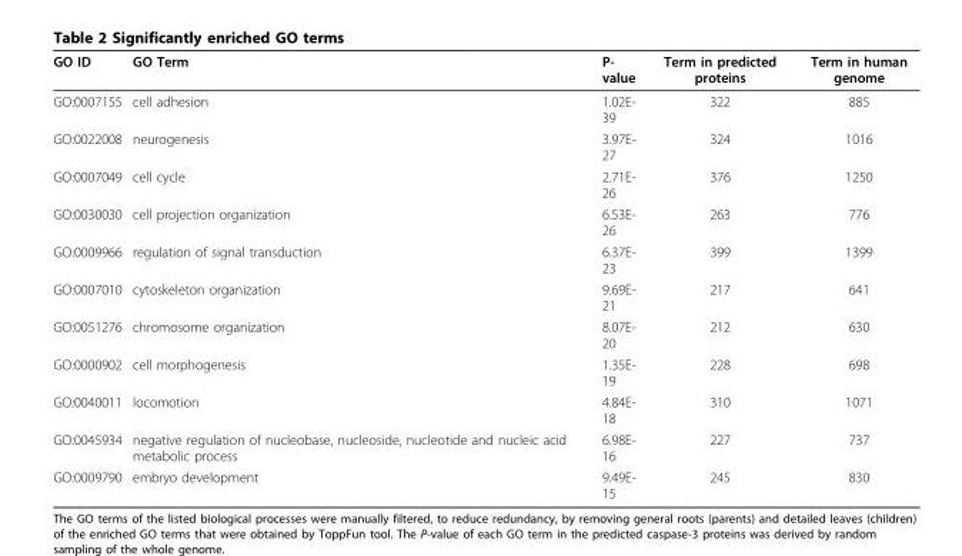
<table><thead><tr><td>GO ID</td><td>GO Term</td><td>P- value</td><td>Term in predicted proteins</td><td>Term in human genome</td></tr></thead><tbody><tr><td>GO:0007155</td><td>cell adhesion</td><td>1.02E- 39</td><td>322</td><td>885</td></tr><tr><td>GO:0022008</td><td>neurogenesis</td><td>3.97E- 27</td><td>324</td><td>1016</td></tr><tr><td>GO:0007049</td><td>cell cycle</td><td>2.71E- 26</td><td>376</td><td>1250</td></tr><tr><td>GO:0030030</td><td>cell projection organization</td><td>6.53E- 26</td><td>263</td><td>776</td></tr><tr><td>GO:0009966</td><td>regulation of signal transduction</td><td>6.37E- 23</td><td>399</td><td>1399</td></tr><tr><td>GO:0007010</td><td>cytoskeleton organization</td><td>9.69E- 21</td><td>217</td><td>641</td></tr><tr><td>GO:0051276</td><td>chromosome organization</td><td>8.07E- 20</td><td>212</td><td>630</td></tr><tr><td>GO:0000902</td><td>cell morphogenesis</td><td>1.35E- 19</td><td>228</td><td>698</td></tr><tr><td>GO:0040011</td><td>locomotion</td><td>4.84E- 18</td><td>310</td><td>1071</td></tr><tr><td>GO:0045934</td><td>negative regulation of nucleobase, nucleoside, nucleotide and nucleic acid metabolic process</td><td>6.98E- 16</td><td>227</td><td>737</td></tr><tr><td>GO:0009790</td><td>embryo development</td><td>9.49E- 15</td><td>245</td><td>830</td></tr></tbody></table>